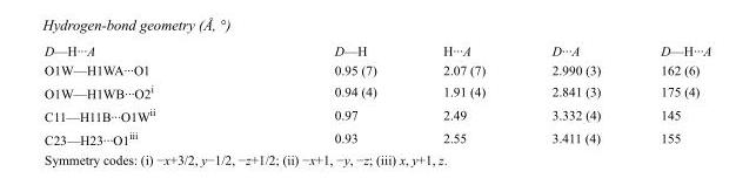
<table><tbody><tr><td>D—H···A</td><td>D—H</td><td>H···A</td><td>D···A</td><td>D—H···A</td></tr><tr><td>O1W—H1WA···O1</td><td>0.95 (7)</td><td>2.07 (7)</td><td>2.990 (3)</td><td>162 (6)</td></tr><tr><td>O1W—H1WB···O2<sup>i</sup></td><td>0.94 (4)</td><td>1.91 (4)</td><td>2.841 (3)</td><td>175 (4)</td></tr><tr><td>C11—H11B···O1W<sup>ii</sup></td><td>0.97</td><td>2.49</td><td>3.332 (4)</td><td>145</td></tr><tr><td>C23—H23···O1<sup>iii</sup></td><td>0.93</td><td>2.55</td><td>3.411 (4)</td><td>155</td></tr></tbody></table>